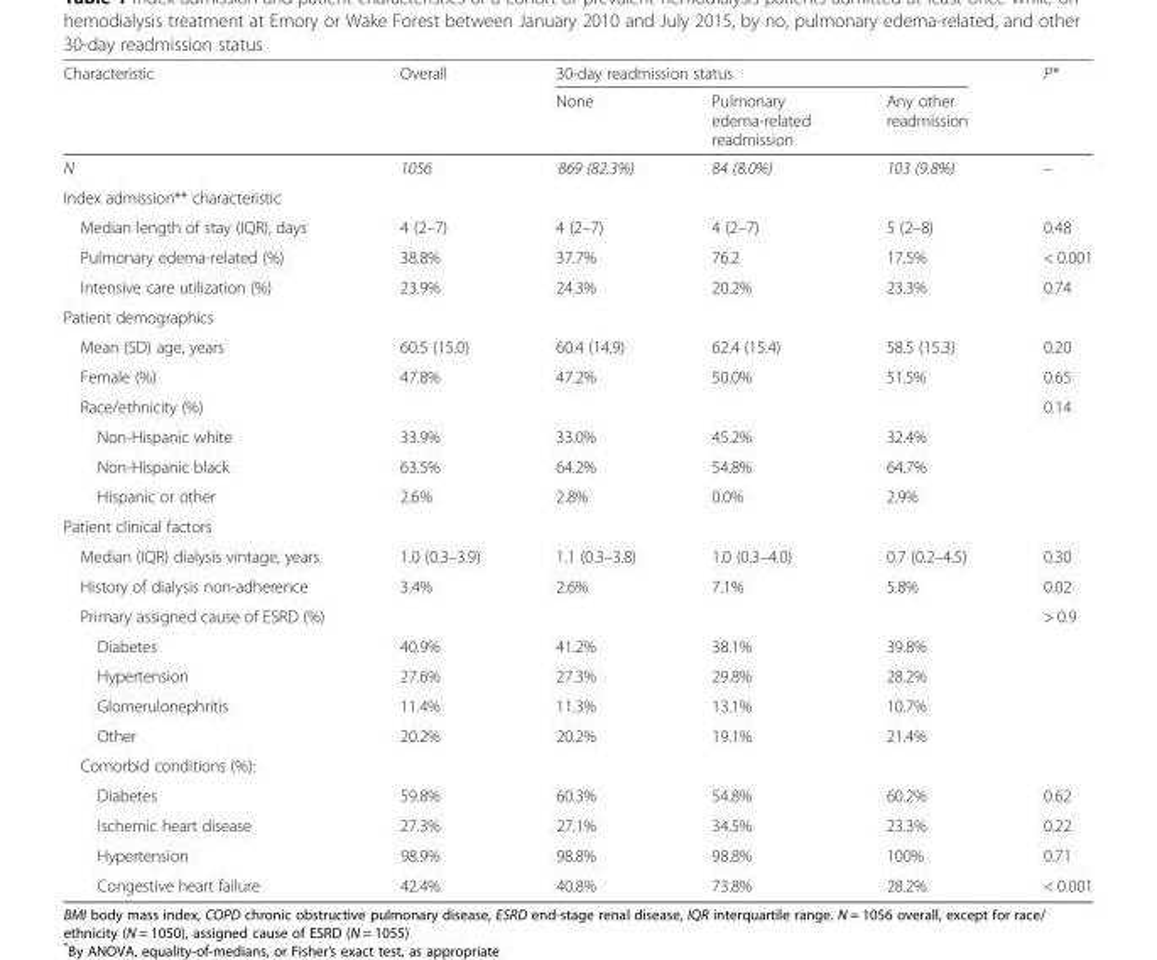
<table><thead><tr><td rowspan="2">Characteristic</td><td rowspan="2">Overall</td><td colspan="3">30-day readmission status</td><td rowspan="2">P*</td></tr><tr><td>None</td><td>Pulmonary edema-related readmission</td><td>Any other readmission</td></tr></thead><tbody><tr><td>N</td><td>1056</td><td>869 (82.3%)</td><td>84 (8.0%)</td><td>103 (9.8%)</td><td>–</td></tr><tr><td colspan="6">Index admission** characteristic</td></tr><tr><td>Median length of stay (IQR), days</td><td>4 (2–7)</td><td>4 (2–7)</td><td>4 (2–7)</td><td>5 (2–8)</td><td>0.48</td></tr><tr><td>Pulmonary edema-related (%)</td><td>38.8%</td><td>37.7%</td><td>76.2</td><td>17.5%</td><td>&lt; 0.001</td></tr><tr><td>Intensive care utilization (%)</td><td>23.9%</td><td>24.3%</td><td>20.2%</td><td>23.3%</td><td>0.74</td></tr><tr><td colspan="6">Patient demographics</td></tr><tr><td>Mean (SD) age, years</td><td>60.5 (15.0)</td><td>60.4 (14.9)</td><td>62.4 (15.4)</td><td>58.5 (15.3)</td><td>0.20</td></tr><tr><td>Female (%)</td><td>47.8%</td><td>47.2%</td><td>50.0%</td><td>51.5%</td><td>0.65</td></tr><tr><td>Race/ethnicity (%)</td><td></td><td></td><td></td><td></td><td>0.14</td></tr><tr><td>Non-Hispanic white</td><td>33.9%</td><td>33.0%</td><td>45.2%</td><td>32.4%</td><td></td></tr><tr><td>Non-Hispanic black</td><td>63.5%</td><td>64.2%</td><td>54.8%</td><td>64.7%</td><td></td></tr><tr><td>Hispanic or other</td><td>2.6%</td><td>2.8%</td><td>0.0%</td><td>2.9%</td><td></td></tr><tr><td colspan="6">Patient clinical factors</td></tr><tr><td>Median (IQR) dialysis vintage, years</td><td>1.0 (0.3–3.9)</td><td>1.1 (0.3–3.8)</td><td>1.0 (0.3–4.0)</td><td>0.7 (0.2–4.5)</td><td>0.30</td></tr><tr><td>History of dialysis non-adherence</td><td>3.4%</td><td>2.6%</td><td>7.1%</td><td>5.8%</td><td>0.02</td></tr><tr><td>Primary assigned cause of ESRD (%)</td><td></td><td></td><td></td><td></td><td>&gt; 0.9</td></tr><tr><td>Diabetes</td><td>40.9%</td><td>41.2%</td><td>38.1%</td><td>39.8%</td><td></td></tr><tr><td>Hypertension</td><td>27.6%</td><td>27.3%</td><td>29.8%</td><td>28.2%</td><td></td></tr><tr><td>Glomerulonephritis</td><td>11.4%</td><td>11.3%</td><td>13.1%</td><td>10.7%</td><td></td></tr><tr><td>Other</td><td>20.2%</td><td>20.2%</td><td>19.1%</td><td>21.4%</td><td></td></tr><tr><td colspan="6">Comorbid conditions (%):</td></tr><tr><td>Diabetes</td><td>59.8%</td><td>60.3%</td><td>54.8%</td><td>60.2%</td><td>0.62</td></tr><tr><td>Ischemic heart disease</td><td>27.3%</td><td>27.1%</td><td>34.5%</td><td>23.3%</td><td>0.22</td></tr><tr><td>Hypertension</td><td>98.9%</td><td>98.8%</td><td>98.8%</td><td>100%</td><td>0.71</td></tr><tr><td>Congestive heart failure</td><td>42.4%</td><td>40.8%</td><td>73.8%</td><td>28.2%</td><td>&lt; 0.001</td></tr></tbody></table>